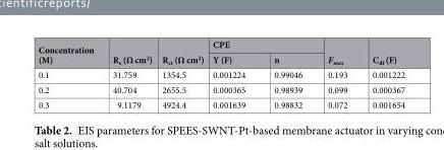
<table><thead><tr><td rowspan="2">Concentration (M)</td><td rowspan="2">R<sub>s</sub> (Ω cm<sup>2</sup>)</td><td rowspan="2">R<sub>ct</sub> (Ω cm<sup>2</sup>)</td><td colspan="2">CPE</td><td rowspan="2">F<sub>max</sub></td><td rowspan="2">C<sub>dl</sub> (F)</td></tr><tr><td>Y (F)</td><td>n</td></tr></thead><tbody><tr><td>0.1</td><td>31.759</td><td>1354.5</td><td>0.001224</td><td>0.99046</td><td>0.193</td><td>0.001222</td></tr><tr><td>0.2</td><td>40.704</td><td>2655.5</td><td>0.000365</td><td>0.98939</td><td>0.099</td><td>0.000367</td></tr><tr><td>0.3</td><td>9.1179</td><td>4924.4</td><td>0.001639</td><td>0.98832</td><td>0.072</td><td>0.001654</td></tr></tbody></table>